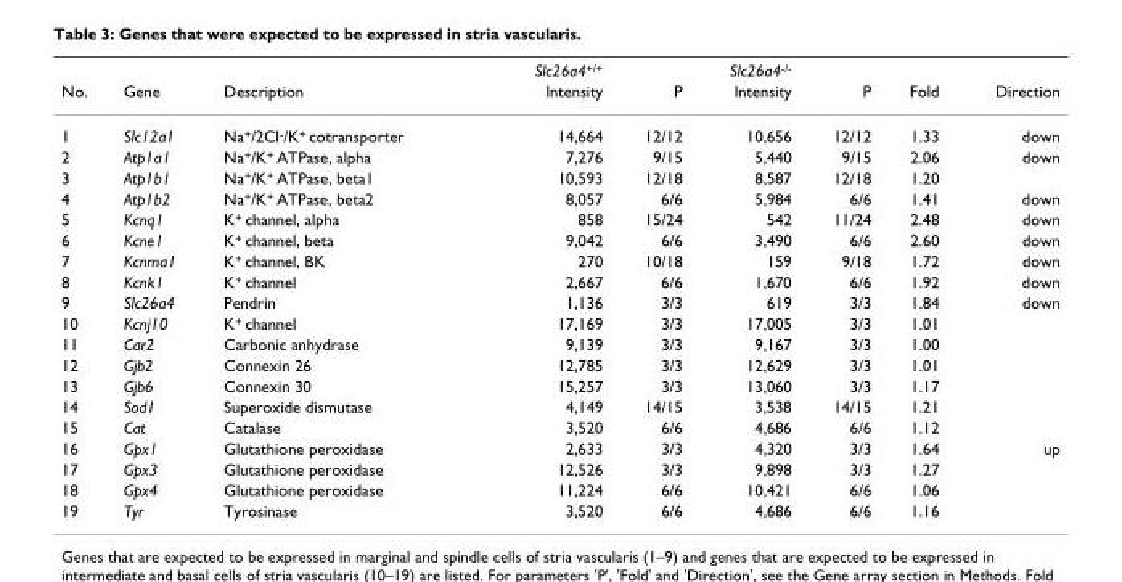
<table><thead><tr><td rowspan="2">No.</td><td rowspan="2">Gene</td><td rowspan="2">Description</td><td colspan="2">Slc26a4<sup>+/+</sup></td><td colspan="2">Slc26a4<sup>-/-</sup></td><td rowspan="2">Fold</td><td rowspan="2">Direction</td></tr><tr><td>Intensity</td><td>P</td><td>Intensity</td><td>P</td></tr></thead><tbody><tr><td>1</td><td>Slc12a1</td><td>Na<sup>+</sup>/2Cl<sup>-</sup>/K<sup>+</sup> cotransporter</td><td>14,664</td><td>12/12</td><td>10,656</td><td>12/12</td><td>1.33</td><td>down</td></tr><tr><td>2</td><td>Atp1a1</td><td>Na<sup>+</sup>/K<sup>+</sup> ATPase, alpha</td><td>7,276</td><td>9/15</td><td>5,440</td><td>9/15</td><td>2.06</td><td>down</td></tr><tr><td>3</td><td>Atp1b1</td><td>Na<sup>+</sup>/K<sup>+</sup> ATPase, beta1</td><td>10,593</td><td>12/18</td><td>8,587</td><td>12/18</td><td>1.20</td><td></td></tr><tr><td>4</td><td>Atp1b2</td><td>Na<sup>+</sup>/K<sup>+</sup> ATPase, beta2</td><td>8,057</td><td>6/6</td><td>5,984</td><td>6/6</td><td>1.41</td><td>down</td></tr><tr><td>5</td><td>Kcnq1</td><td>K<sup>+</sup> channel, alpha</td><td>858</td><td>15/24</td><td>542</td><td>11/24</td><td>2.48</td><td>down</td></tr><tr><td>6</td><td>Kcne1</td><td>K<sup>+</sup> channel, beta</td><td>9,042</td><td>6/6</td><td>3,490</td><td>6/6</td><td>2.60</td><td>down</td></tr><tr><td>7</td><td>Kcnma1</td><td>K<sup>+</sup> channel, BK</td><td>270</td><td>10/18</td><td>159</td><td>9/18</td><td>1.72</td><td>down</td></tr><tr><td>8</td><td>Kcnk1</td><td>K<sup>+</sup> channel</td><td>2,667</td><td>6/6</td><td>1,670</td><td>6/6</td><td>1.92</td><td>down</td></tr><tr><td>9</td><td>Slc26a4</td><td>Pendrin</td><td>1,136</td><td>3/3</td><td>619</td><td>3/3</td><td>1.84</td><td>down</td></tr><tr><td>10</td><td>Kcnj10</td><td>K<sup>+</sup> channel</td><td>17,169</td><td>3/3</td><td>17,005</td><td>3/3</td><td>1.01</td><td></td></tr><tr><td>11</td><td>Car2</td><td>Carbonic anhydrase</td><td>9,139</td><td>3/3</td><td>9,167</td><td>3/3</td><td>1.00</td><td></td></tr><tr><td>12</td><td>Gjb2</td><td>Connexin 26</td><td>12,785</td><td>3/3</td><td>12,629</td><td>3/3</td><td>1.01</td><td></td></tr><tr><td>13</td><td>Gjb6</td><td>Connexin 30</td><td>15,257</td><td>3/3</td><td>13,060</td><td>3/3</td><td>1.17</td><td></td></tr><tr><td>14</td><td>Sod1</td><td>Superoxide dismutase</td><td>4,149</td><td>14/15</td><td>3,538</td><td>14/15</td><td>1.21</td><td></td></tr><tr><td>15</td><td>Cat</td><td>Catalase</td><td>3,520</td><td>6/6</td><td>4,686</td><td>6/6</td><td>1.12</td><td></td></tr><tr><td>16</td><td>Gpx1</td><td>Glutathione peroxidase</td><td>2,633</td><td>3/3</td><td>4,320</td><td>3/3</td><td>1.64</td><td>up</td></tr><tr><td>17</td><td>Gpx3</td><td>Glutathione peroxidase</td><td>12,526</td><td>3/3</td><td>9,898</td><td>3/3</td><td>1.27</td><td></td></tr><tr><td>18</td><td>Gpx4</td><td>Glutathione peroxidase</td><td>11,224</td><td>6/6</td><td>10,421</td><td>6/6</td><td>1.06</td><td></td></tr><tr><td>19</td><td>Tyr</td><td>Tyrosinase</td><td>3,520</td><td>6/6</td><td>4,686</td><td>6/6</td><td>1.16</td><td></td></tr></tbody></table>